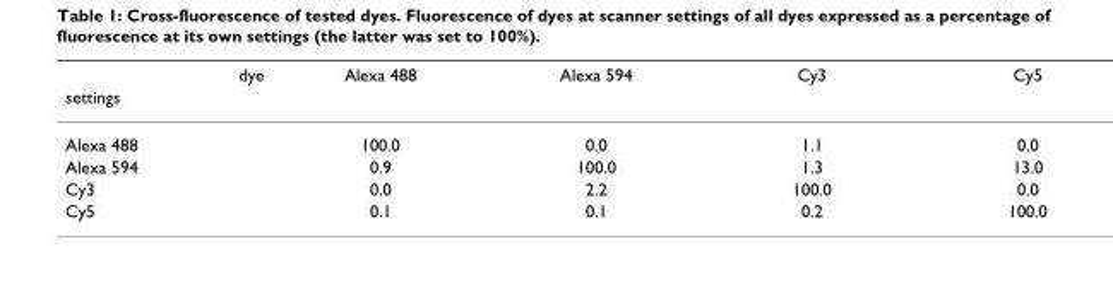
<table><thead><tr><td rowspan="2">dye settings</td><td rowspan="2">Alexa 488</td><td rowspan="2">Alexa 594</td><td rowspan="2">Cy3</td><td rowspan="2">Cy5</td></tr><tr></tr></thead><tbody><tr><td>Alexa 488</td><td>100.0</td><td>0.0</td><td>1.1</td><td>0.0</td></tr><tr><td>Alexa 594</td><td>0.9</td><td>100.0</td><td>1.3</td><td>13.0</td></tr><tr><td>Cy3</td><td>0.0</td><td>2.2</td><td>100.0</td><td>0.0</td></tr><tr><td>Cy5</td><td>0.1</td><td>0.1</td><td>0.2</td><td>100.0</td></tr></tbody></table>